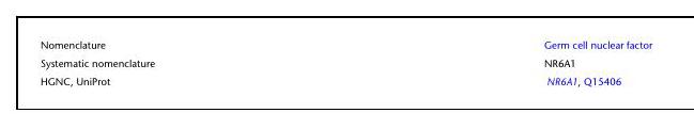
<table><tbody><tr><td>Nomenclature</td><td>Germ cell nuclear factor</td></tr><tr><td>Systematic nomenclature</td><td>NR6A1</td></tr><tr><td>HGNC, UniProt</td><td>NR6A1, Q15406</td></tr></tbody></table>